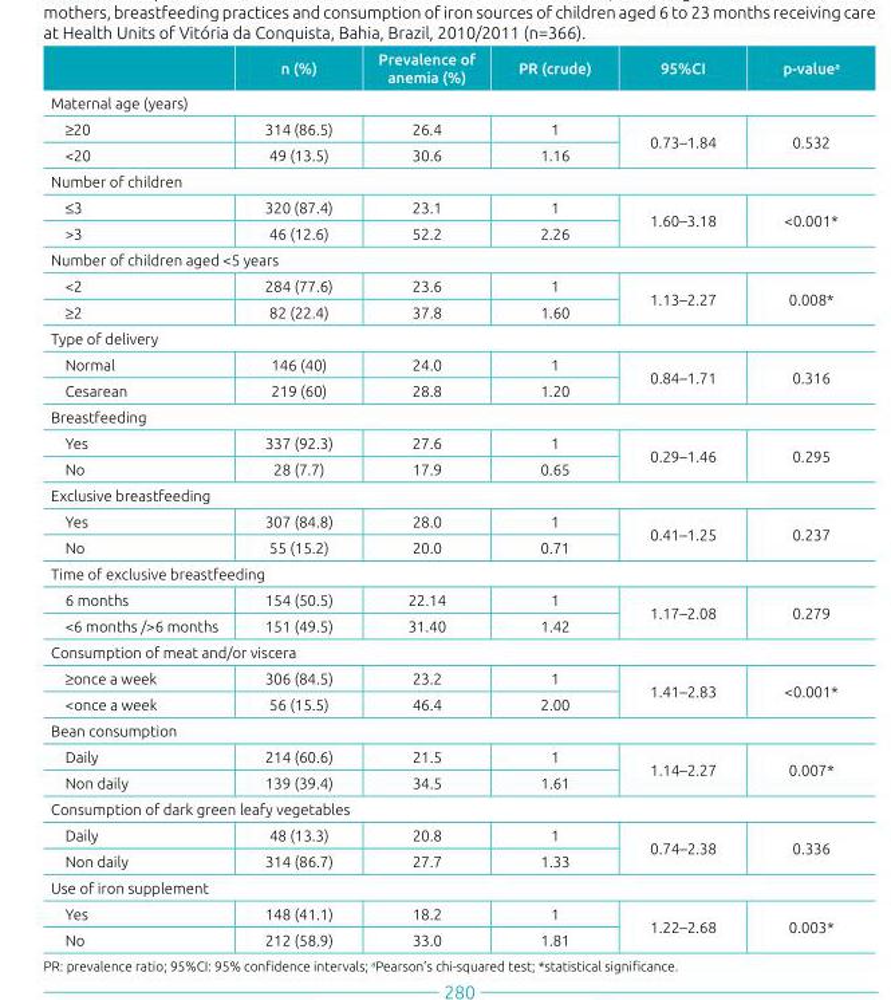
<table><thead><tr><td></td><td>n (%)</td><td>Prevalence of anemia (%)</td><td>PR (crude)</td><td>95%CI</td><td>p‑value<sup>a</sup></td></tr></thead><tbody><tr><td colspan="6">Maternal age (years)</td></tr><tr><td>≥20</td><td>314 (86.5)</td><td>26.4</td><td>1</td><td rowspan="2">0.73–1.84</td><td rowspan="2">0.532</td></tr><tr><td>&lt;20</td><td>49 (13.5)</td><td>30.6</td><td>1.16</td></tr><tr><td colspan="6">Number of children</td></tr><tr><td>≤3</td><td>320 (87.4)</td><td>23.1</td><td>1</td><td rowspan="2">1.60–3.18</td><td rowspan="2">&lt;0.001*</td></tr><tr><td>&gt;3</td><td>46 (12.6)</td><td>52.2</td><td>2.26</td></tr><tr><td colspan="6">Number of children aged &lt;5 years</td></tr><tr><td>&lt;2</td><td>284 (77.6)</td><td>23.6</td><td>1</td><td rowspan="2">1.13–2.27</td><td rowspan="2">0.008*</td></tr><tr><td>≥2</td><td>82 (22.4)</td><td>37.8</td><td>1.60</td></tr><tr><td colspan="6">Type of delivery</td></tr><tr><td>Normal</td><td>146 (40)</td><td>24.0</td><td>1</td><td rowspan="2">0.84–1.71</td><td rowspan="2">0.316</td></tr><tr><td>Cesarean</td><td>219 (60)</td><td>28.8</td><td>1.20</td></tr><tr><td colspan="6">Breastfeeding</td></tr><tr><td>Yes</td><td>337 (92.3)</td><td>27.6</td><td>1</td><td rowspan="2">0.29–1.46</td><td rowspan="2">0.295</td></tr><tr><td>No</td><td>28 (7.7)</td><td>17.9</td><td>0.65</td></tr><tr><td colspan="6">Exclusive breastfeeding</td></tr><tr><td>Yes</td><td>307 (84.8)</td><td>28.0</td><td>1</td><td rowspan="2">0.41–1.25</td><td rowspan="2">0.237</td></tr><tr><td>No</td><td>55 (15.2)</td><td>20.0</td><td>0.71</td></tr><tr><td colspan="6">Time of exclusive breastfeeding</td></tr><tr><td>6 months</td><td>154 (50.5)</td><td>22.14</td><td>1</td><td rowspan="2">1.17–2.08</td><td rowspan="2">0.279</td></tr><tr><td>&lt;6 months /&gt;6 months</td><td>151 (49.5)</td><td>31.40</td><td>1.42</td></tr><tr><td colspan="6">Consumption of meat and/or viscera</td></tr><tr><td>≥once a week</td><td>306 (84.5)</td><td>23.2</td><td>1</td><td rowspan="2">1.41–2.83</td><td rowspan="2">&lt;0.001*</td></tr><tr><td>&lt;once a week</td><td>56 (15.5)</td><td>46.4</td><td>2.00</td></tr><tr><td colspan="6">Bean consumption</td></tr><tr><td>Daily</td><td>214 (60.6)</td><td>21.5</td><td>1</td><td rowspan="2">1.14–2.27</td><td rowspan="2">0.007*</td></tr><tr><td>Non daily</td><td>139 (39.4)</td><td>34.5</td><td>1.61</td></tr><tr><td colspan="6">Consumption of dark green leafy vegetables</td></tr><tr><td>Daily</td><td>48 (13.3)</td><td>20.8</td><td>1</td><td rowspan="2">0.74–2.38</td><td rowspan="2">0.336</td></tr><tr><td>Non daily</td><td>314 (86.7)</td><td>27.7</td><td>1.33</td></tr><tr><td colspan="6">Use of iron supplement</td></tr><tr><td>Yes</td><td>148 (41.1)</td><td>18.2</td><td>1</td><td rowspan="2">1.22–2.68</td><td rowspan="2">0.003*</td></tr><tr><td>No</td><td>212 (58.9)</td><td>33.0</td><td>1.81</td></tr></tbody></table>